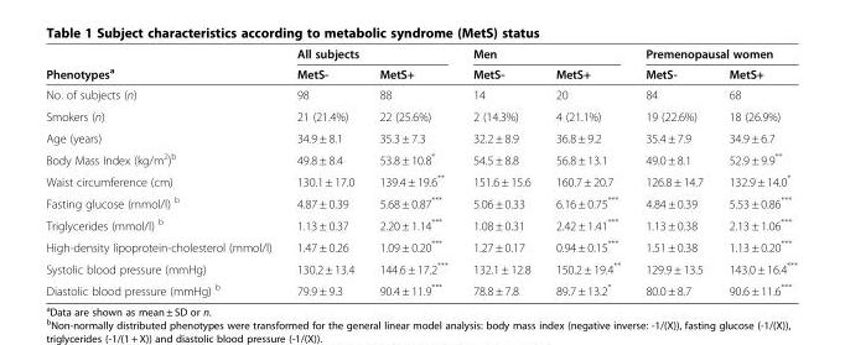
<table><thead><tr><td rowspan="2">Phenotypes<sup>a</sup></td><td colspan="2">All subjects</td><td colspan="2">Men</td><td colspan="2">Premenopausal women</td></tr><tr><td>MetS-</td><td>MetS+</td><td>MetS-</td><td>MetS+</td><td>MetS-</td><td>MetS+</td></tr></thead><tbody><tr><td>No. of subjects (n)</td><td>98</td><td>88</td><td>14</td><td>20</td><td>84</td><td>68</td></tr><tr><td>Smokers (n)</td><td>21 (21.4%)</td><td>22 (25.6%)</td><td>2 (14.3%)</td><td>4 (21.1%)</td><td>19 (22.6%)</td><td>18 (26.9%)</td></tr><tr><td>Age (years)</td><td>34.9 ± 8.1</td><td>35.3 ± 7.3</td><td>32.2 ± 8.9</td><td>36.8 ± 9.2</td><td>35.4 ± 7.9</td><td>34.9 ± 6.7</td></tr><tr><td>Body Mass Index (kg/m<sup>2</sup>)<sup>b</sup></td><td>49.8 ± 8.4</td><td>53.8 ± 10.8*</td><td>54.5 ± 8.8</td><td>56.8 ± 13.1</td><td>49.0 ± 8.1</td><td>52.9 ± 9.9**</td></tr><tr><td>Waist circumference (cm)</td><td>130.1 ± 17.0</td><td>139.4 ± 19.6**</td><td>151.6 ± 15.6</td><td>160.7 ± 20.7</td><td>126.8 ± 14.7</td><td>132.9 ± 14.0*</td></tr><tr><td>Fasting glucose (mmol/l) <sup>b</sup></td><td>4.87 ± 0.39</td><td>5.68 ± 0.87***</td><td>5.06 ± 0.33</td><td>6.16 ± 0.75***</td><td>4.84 ± 0.39</td><td>5.53 ± 0.86***</td></tr><tr><td>Triglycerides (mmol/l) <sup>b</sup></td><td>1.13 ± 0.37</td><td>2.20 ± 1.14***</td><td>1.08 ± 0.31</td><td>2.42 ± 1.41***</td><td>1.13 ± 0.38</td><td>2.13 ± 1.06***</td></tr><tr><td>High-density lipoprotein-cholesterol (mmol/l)</td><td>1.47 ± 0.26</td><td>1.09 ± 0.20***</td><td>1.27 ± 0.17</td><td>0.94 ± 0.15***</td><td>1.51 ± 0.38</td><td>1.13 ± 0.20***</td></tr><tr><td>Systolic blood pressure (mmHg)</td><td>130.2 ± 13.4</td><td>144.6 ± 17.2***</td><td>132.1 ± 12.8</td><td>150.2 ± 19.4**</td><td>129.9 ± 13.5</td><td>143.0 ± 16.4***</td></tr><tr><td>Diastolic blood pressure (mmHg) <sup>b</sup></td><td>79.9 ± 9.3</td><td>90.4 ± 11.9***</td><td>78.8 ± 7.8</td><td>89.7 ± 13.2*</td><td>80.0 ± 8.7</td><td>90.6 ± 11.6***</td></tr></tbody></table>